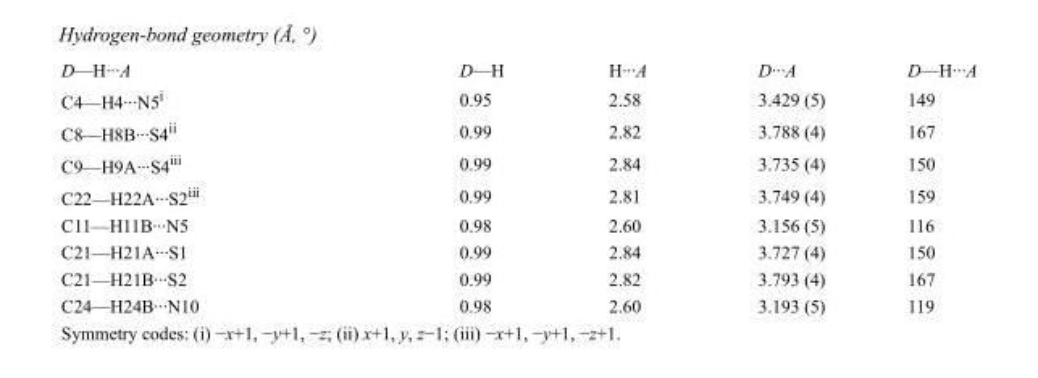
<table><tbody><tr><td>D—H···A</td><td>D—H</td><td>H···A</td><td>D···A</td><td>D—H···A</td></tr><tr><td>C4—H4···N5<sup>i</sup></td><td>0.95</td><td>2.58</td><td>3.429 (5)</td><td>149</td></tr><tr><td>C8—H8B···S4<sup>ii</sup></td><td>0.99</td><td>2.82</td><td>3.788 (4)</td><td>167</td></tr><tr><td>C9—H9A···S4<sup>iii</sup></td><td>0.99</td><td>2.84</td><td>3.735 (4)</td><td>150</td></tr><tr><td>C22—H22A···S2<sup>iii</sup></td><td>0.99</td><td>2.81</td><td>3.749 (4)</td><td>159</td></tr><tr><td>C11—H11B···N5</td><td>0.98</td><td>2.60</td><td>3.156 (5)</td><td>116</td></tr><tr><td>C21—H21A···S1</td><td>0.99</td><td>2.84</td><td>3.727 (4)</td><td>150</td></tr><tr><td>C21—H21B···S2</td><td>0.99</td><td>2.82</td><td>3.793 (4)</td><td>167</td></tr><tr><td>C24—H24B···N10</td><td>0.98</td><td>2.60</td><td>3.193 (5)</td><td>119</td></tr></tbody></table>